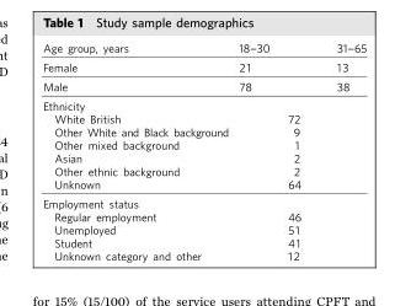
<table><tbody><tr><td>Age group, years</td><td>18-30</td><td></td><td>31-65</td></tr><tr><td>Female</td><td>21</td><td></td><td>13</td></tr><tr><td>Male</td><td>78</td><td></td><td>38</td></tr><tr><td colspan="4">Ethnicity</td></tr><tr><td>White British</td><td></td><td>72</td><td></td></tr><tr><td>Other White and Black background</td><td></td><td>9</td><td></td></tr><tr><td>Other mixed background</td><td></td><td>1</td><td></td></tr><tr><td>Asian</td><td></td><td>2</td><td></td></tr><tr><td>Other ethnic background</td><td></td><td>2</td><td></td></tr><tr><td>Unknown</td><td></td><td>64</td><td></td></tr><tr><td colspan="4">Employment status</td></tr><tr><td>Regular employment</td><td></td><td>46</td><td></td></tr><tr><td>Unemployed</td><td></td><td>51</td><td></td></tr><tr><td>Student</td><td></td><td>41</td><td></td></tr><tr><td>Unknown category and other</td><td></td><td>12</td><td></td></tr></tbody></table>